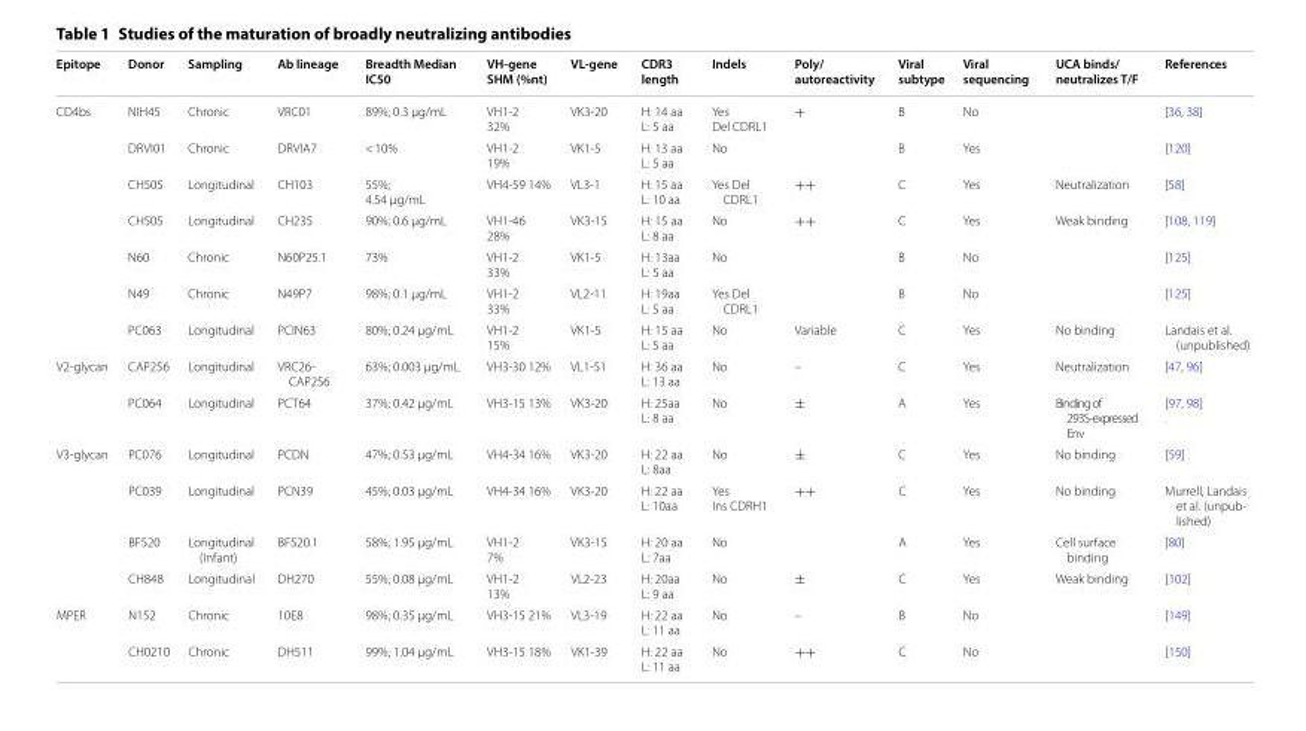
<table><thead><tr><td>Epitope</td><td>Donor</td><td>Sampling</td><td>Ab lineage</td><td>Breadth Median IC50</td><td>VH-gene SHM (%nt)</td><td>VL-gene</td><td>CDR3 length</td><td>Indels</td><td>Poly/ autoreactivity</td><td>Viral subtype</td><td>Viral sequencing</td><td>UCA binds/ neutralizes T/F</td><td>References</td></tr></thead><tbody><tr><td rowspan="7">CD4bs</td><td>NIH45</td><td>Chronic</td><td>VRC01</td><td>89%; 0.3 µg/mL</td><td>VH1-2 32%</td><td>VK3-20</td><td>H: 14 aa L: 5 aa</td><td>Yes Del CDRL1</td><td>+</td><td>B</td><td>No</td><td></td><td>[36, 38]</td></tr><tr><td>DRVI01</td><td>Chronic</td><td>DRVIA7</td><td>&lt; 10%</td><td>VH1-2 19%</td><td>VK1-5</td><td>H: 13 aa L: 5 aa</td><td>No</td><td></td><td>B</td><td>Yes</td><td></td><td>[120]</td></tr><tr><td>CH505</td><td>Longitudinal</td><td>CH103</td><td>55%; 4.54 µg/mL</td><td>VH4-59 14%</td><td>VL3-1</td><td>H: 15 aa L: 10 aa</td><td>Yes Del CDRL1</td><td>++</td><td>C</td><td>Yes</td><td>Neutralization</td><td>[58]</td></tr><tr><td>CH505</td><td>Longitudinal</td><td>CH235</td><td>90%; 0.6 µg/mL</td><td>VH1-46 28%</td><td>VK3-15</td><td>H: 15 aa L: 8 aa</td><td>No</td><td>++</td><td>C</td><td>Yes</td><td>Weak binding</td><td>[108, 119]</td></tr><tr><td>N60</td><td>Chronic</td><td>N60P25.1</td><td>73%</td><td>VH1-2 33%</td><td>VK1-5</td><td>H: 13aa L: 5 aa</td><td>No</td><td></td><td>B</td><td>No</td><td></td><td>[125]</td></tr><tr><td>N49</td><td>Chronic</td><td>N49P7</td><td>98%; 0.1 µg/mL</td><td>VH1-2 33%</td><td>VL2-11</td><td>H: 19aa L: 5 aa</td><td>Yes Del CDRL1</td><td></td><td>B</td><td>No</td><td></td><td>[125]</td></tr><tr><td>PC063</td><td>Longitudinal</td><td>PCIN63</td><td>80%; 0.24 µg/mL</td><td>VH1-2 15%</td><td>VK1-5</td><td>H: 15 aa L: 5 aa</td><td>No</td><td>Variable</td><td>C</td><td>Yes</td><td>No binding</td><td>Landais et al. (unpublished)</td></tr><tr><td rowspan="2">V2-glycan</td><td>CAP256</td><td>Longitudinal</td><td>VRC26- CAP256</td><td>63%; 0.003 µg/mL</td><td>VH3-30 12%</td><td>VL1-51</td><td>H: 36 aa L: 13 aa</td><td>No</td><td>–</td><td>C</td><td>Yes</td><td>Neutralization</td><td>[47, 96]</td></tr><tr><td>PC064</td><td>Longitudinal</td><td>PCT64</td><td>37%; 0.42 µg/mL</td><td>VH3-15 13%</td><td>VK3-20</td><td>H: 25aa L: 8 aa</td><td>No</td><td>±</td><td>A</td><td>Yes</td><td>Binding of 293S-expressed Env</td><td>[97, 98] .</td></tr><tr><td rowspan="4">V3-glycan</td><td>PC076</td><td>Longitudinal</td><td>PCDN</td><td>47%; 0.53 µg/mL</td><td>VH4-34 16%</td><td>VK3-20</td><td>H: 22 aa L: 8aa</td><td>No</td><td>±</td><td>C</td><td>Yes</td><td>No binding</td><td>[59]</td></tr><tr><td>PC039</td><td>Longitudinal</td><td>PCN39</td><td>45%; 0.03 µg/mL</td><td>VH4-34 16%</td><td>VK3-20</td><td>H: 22 aa L: 10aa</td><td>Yes Ins CDRH1</td><td>++</td><td>C</td><td>Yes</td><td>No binding</td><td>Murrell, Landais et al. (unpub- lished)</td></tr><tr><td>BF520</td><td>Longitudinal (Infant)</td><td>BF520.1</td><td>58%; 1.95 µg/mL</td><td>VH1-2 7%</td><td>VK3-15</td><td>H: 20 aa L: 7aa</td><td>No</td><td></td><td>A</td><td>Yes</td><td>Cell surface binding</td><td>[80]</td></tr><tr><td>CH848</td><td>Longitudinal</td><td>DH270</td><td>55%; 0.08 µg/mL</td><td>VH1-2 13%</td><td>VL2-23</td><td>H: 20aa L: 9 aa</td><td>No</td><td>±</td><td>C</td><td>Yes</td><td>Weak binding</td><td>[102]</td></tr><tr><td rowspan="2">MPER</td><td>N152</td><td>Chronic</td><td>10E8</td><td>98%; 0.35 µg/mL</td><td>VH3-15 21%</td><td>VL3-19</td><td>H: 22 aa L: 11 aa</td><td>No</td><td>–</td><td>B</td><td>No</td><td></td><td>[149]</td></tr><tr><td>CH0210</td><td>Chronic</td><td>DH511</td><td>99%; 1.04 µg/mL</td><td>VH3-15 18%</td><td>VK1-39</td><td>H: 22 aa L: 11 aa</td><td>No</td><td>++</td><td>C</td><td>No</td><td></td><td>[150]</td></tr></tbody></table>